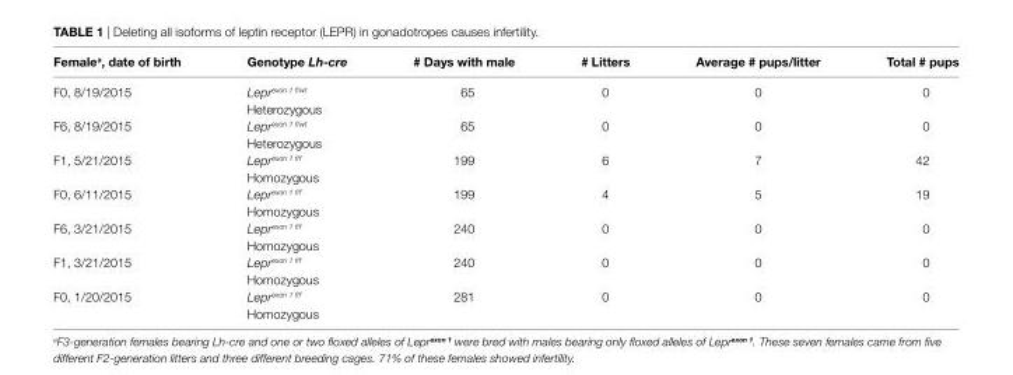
<table><thead><tr><td>Female<sup>a</sup>, date of birth</td><td>Genotype Lh-cre</td><td># days with male</td><td># Litters</td><td>average # pups/litter</td><td>total # pups</td></tr></thead><tbody><tr><td>F0, 8/19/2015</td><td>Lepr<sup>exon 1 f/wt</sup> Heterozygous</td><td>65</td><td>0</td><td>0</td><td>0</td></tr><tr><td>F6, 8/19/2015</td><td>Lepr<sup>exon 1 f/wt</sup> Heterozygous</td><td>65</td><td>0</td><td>0</td><td>0</td></tr><tr><td>F1, 5/21/2015</td><td>Lepr<sup>exon 1 f/f</sup> Homozygous</td><td>199</td><td>6</td><td>7</td><td>42</td></tr><tr><td>F0, 6/11/2015</td><td>Lepr<sup>exon 1 f/f</sup> Homozygous</td><td>199</td><td>4</td><td>5</td><td>19</td></tr><tr><td>F6, 3/21/2015</td><td>Lepr<sup>exon 1 f/f</sup> Homozygous</td><td>240</td><td>0</td><td>0</td><td>0</td></tr><tr><td>F1, 3/21/2015</td><td>Lepr<sup>exon 1 f/f</sup> Homozygous</td><td>240</td><td>0</td><td>0</td><td>0</td></tr><tr><td>F0, 1/20/2015</td><td>Lepr<sup>exon 1 f/f</sup> Homozygous</td><td>281</td><td>0</td><td>0</td><td>0</td></tr></tbody></table>